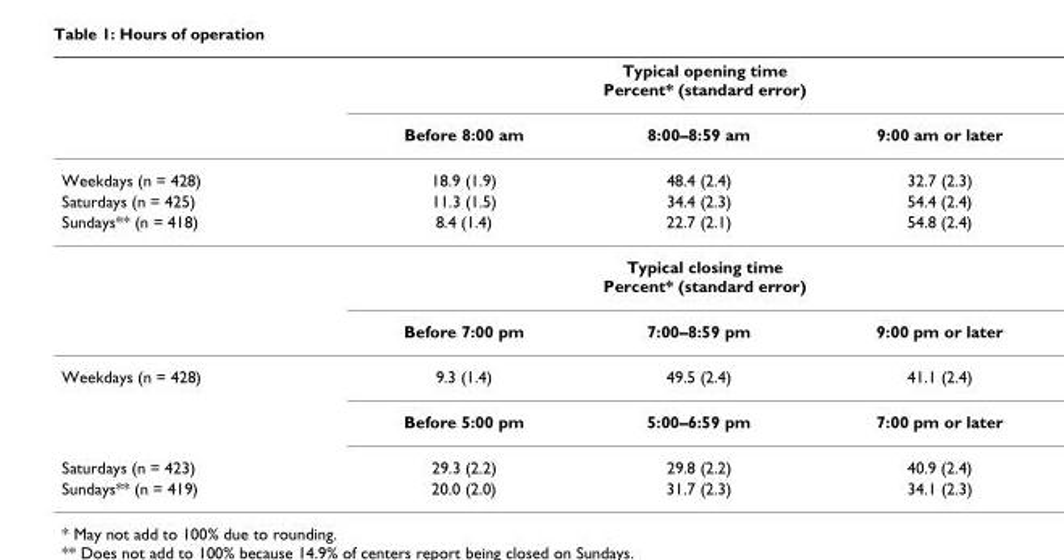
<table><thead><tr><td rowspan="2"></td><td colspan="3">Typical opening time Percent* (standard error)</td></tr><tr><td>Before 8:00 am</td><td>8:00–8:59 am</td><td>9:00 am or later</td></tr></thead><tbody><tr><td>Weekdays (n = 428)</td><td>18.9 (1.9)</td><td>48.4 (2.4)</td><td>32.7 (2.3)</td></tr><tr><td>Saturdays (n = 425)</td><td>11.3 (1.5)</td><td>34.4 (2.3)</td><td>54.4 (2.4)</td></tr><tr><td rowspan="3">Sundays** (n = 418)</td><td>8.4 (1.4)</td><td>22.7 (2.1)</td><td>54.8 (2.4)</td></tr><tr><td colspan="3">Typical closing time Percent* (standard error)</td></tr><tr><td>Before 7:00 pm</td><td>7:00–8:59 pm</td><td>9:00 pm or later</td></tr><tr><td rowspan="2">Weekdays (n = 428)</td><td>9.3 (1.4)</td><td>49.5 (2.4)</td><td>41.1 (2.4)</td></tr><tr><td>Before 5:00 pm</td><td>5:00–6:59 pm</td><td>7:00 pm or later</td></tr><tr><td>Saturdays (n = 423)</td><td>29.3 (2.2)</td><td>29.8 (2.2)</td><td>40.9 (2.4)</td></tr><tr><td>Sundays** (n = 419)</td><td>20.0 (2.0)</td><td>31.7 (2.3)</td><td>34.1 (2.3)</td></tr></tbody></table>